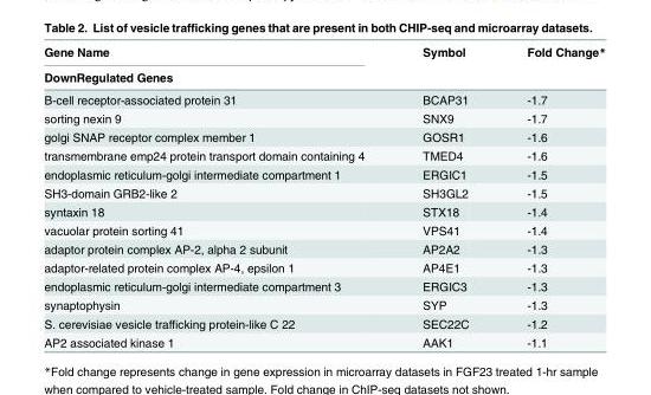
<table><thead><tr><td rowspan="2">Gene Name DownRegulated Genes</td><td rowspan="2">Symbol</td><td rowspan="2">Fold Change*</td></tr><tr></tr></thead><tbody><tr><td>B-cell receptor-associated protein 31</td><td>BCAP31</td><td>-1.7</td></tr><tr><td>sorting nexin 9</td><td>SNX9</td><td>-1.7</td></tr><tr><td>golgi SNAP receptor complex member 1</td><td>GOSR1</td><td>-1.6</td></tr><tr><td>transmembrane emp24 protein transport domain containing 4</td><td>TMED4</td><td>-1.6</td></tr><tr><td>endoplasmic reticulum-golgi intermediate compartment 1</td><td>ERGIC1</td><td>-1.5</td></tr><tr><td>SH3-domain GRB2-like 2</td><td>SH3GL2</td><td>-1.5</td></tr><tr><td>syntaxin 18</td><td>STX18</td><td>-1.4</td></tr><tr><td>vacuolar protein sorting 41</td><td>VPS41</td><td>-1.4</td></tr><tr><td>adaptor protein complex AP-2, alpha 2 subunit</td><td>AP2A2</td><td>-1.3</td></tr><tr><td>adaptor-related protein complex AP-4, epsilon 1</td><td>AP4E1</td><td>-1.3</td></tr><tr><td>endoplasmic reticulum-golgi intermediate compartment 3</td><td>ERGIC3</td><td>-1.3</td></tr><tr><td>synaptophysin</td><td>SYP</td><td>-1.3</td></tr><tr><td>S. cerevisiae vesicle trafficking protein-like C 22</td><td>SEC22C</td><td>-1.2</td></tr><tr><td>AP2 associated kinase 1</td><td>AAK1</td><td>-1.1</td></tr></tbody></table>